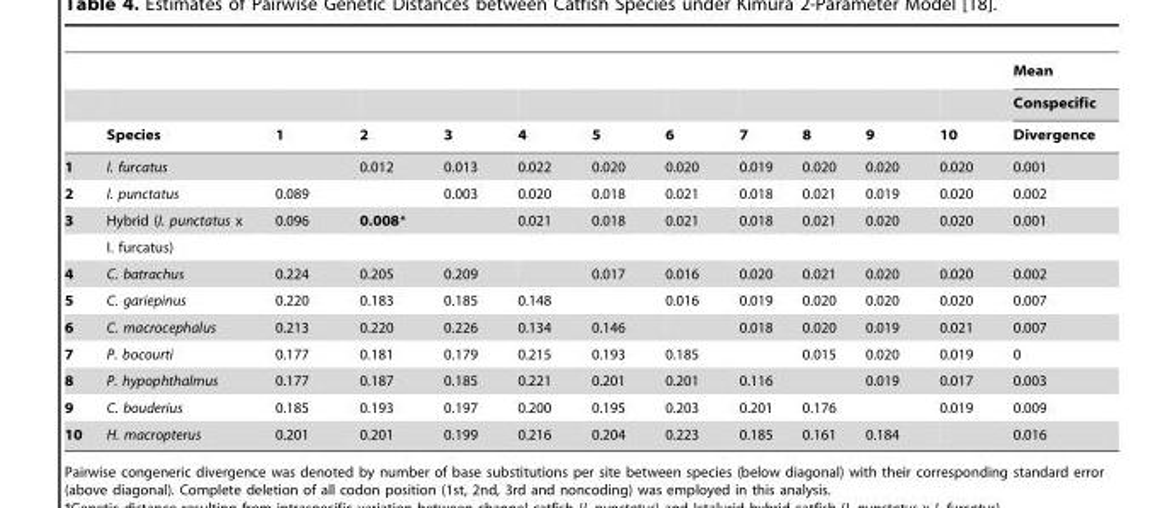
<table><thead><tr><td rowspan="3"></td><td rowspan="3">Species</td><td rowspan="3">1</td><td rowspan="3">2</td><td rowspan="3">3</td><td rowspan="3">4</td><td rowspan="3">5</td><td rowspan="3">6</td><td rowspan="3">7</td><td rowspan="3">8</td><td rowspan="3">9</td><td rowspan="3">10</td><td rowspan="3">Mean Conspecific Divergence</td></tr><tr></tr><tr></tr></thead><tbody><tr><td>1</td><td>I. furcatus</td><td></td><td>0.012</td><td>0.013</td><td>0.022</td><td>0.020</td><td>0.020</td><td>0.019</td><td>0.020</td><td>0.020</td><td>0.020</td><td>0.001</td></tr><tr><td>2</td><td>I. punctatus</td><td>0.089</td><td></td><td>0.003</td><td>0.020</td><td>0.018</td><td>0.021</td><td>0.018</td><td>0.021</td><td>0.019</td><td>0.020</td><td>0.002</td></tr><tr><td rowspan="2">3</td><td>Hybrid (I. punctatus x</td><td>0.096</td><td>0.008*</td><td></td><td>0.021</td><td>0.018</td><td>0.021</td><td>0.018</td><td>0.021</td><td>0.020</td><td>0.020</td><td>0.001</td></tr><tr><td>I. furcatus)</td><td></td><td></td><td></td><td></td><td></td><td></td><td></td><td></td><td></td><td></td><td></td></tr><tr><td>4</td><td>C. batrachus</td><td>0.224</td><td>0.205</td><td>0.209</td><td></td><td>0.017</td><td>0.016</td><td>0.020</td><td>0.021</td><td>0.020</td><td>0.020</td><td>0.002</td></tr><tr><td>5</td><td>C. gariepinus</td><td>0.220</td><td>0.183</td><td>0.185</td><td>0.148</td><td></td><td>0.016</td><td>0.019</td><td>0.020</td><td>0.020</td><td>0.020</td><td>0.007</td></tr><tr><td>6</td><td>C. macrocephalus</td><td>0.213</td><td>0.220</td><td>0.226</td><td>0.134</td><td>0.146</td><td></td><td>0.018</td><td>0.020</td><td>0.019</td><td>0.021</td><td>0.007</td></tr><tr><td>7</td><td>P. bocourti</td><td>0.177</td><td>0.181</td><td>0.179</td><td>0.215</td><td>0.193</td><td>0.185</td><td></td><td>0.015</td><td>0.020</td><td>0.019</td><td>0</td></tr><tr><td>8</td><td>P. hypophthalmus</td><td>0.177</td><td>0.187</td><td>0.185</td><td>0.221</td><td>0.201</td><td>0.201</td><td>0.116</td><td></td><td>0.019</td><td>0.017</td><td>0.003</td></tr><tr><td>9</td><td>C. bouderius</td><td>0.185</td><td>0.193</td><td>0.197</td><td>0.200</td><td>0.195</td><td>0.203</td><td>0.201</td><td>0.176</td><td></td><td>0.019</td><td>0.009</td></tr><tr><td>10</td><td>H. macropterus</td><td>0.201</td><td>0.201</td><td>0.199</td><td>0.216</td><td>0.204</td><td>0.223</td><td>0.185</td><td>0.161</td><td>0.184</td><td></td><td>0.016</td></tr></tbody></table>